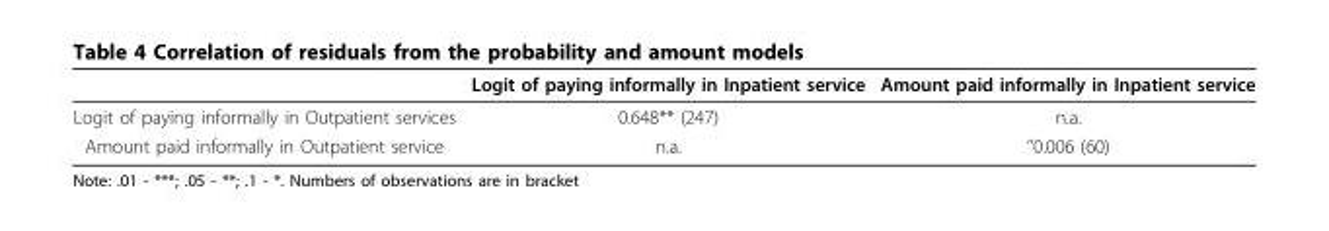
<table><thead><tr><td></td><td>Logit of paying informally in Inpatient service</td><td>Amount paid informally in Inpatient service</td></tr></thead><tbody><tr><td>Logit of paying informally in Outpatient services</td><td>0.648** (247)</td><td>n.a.</td></tr><tr><td>Amount paid informally in Outpatient service</td><td>n.a.</td><td>’’0.006 (60)</td></tr></tbody></table>